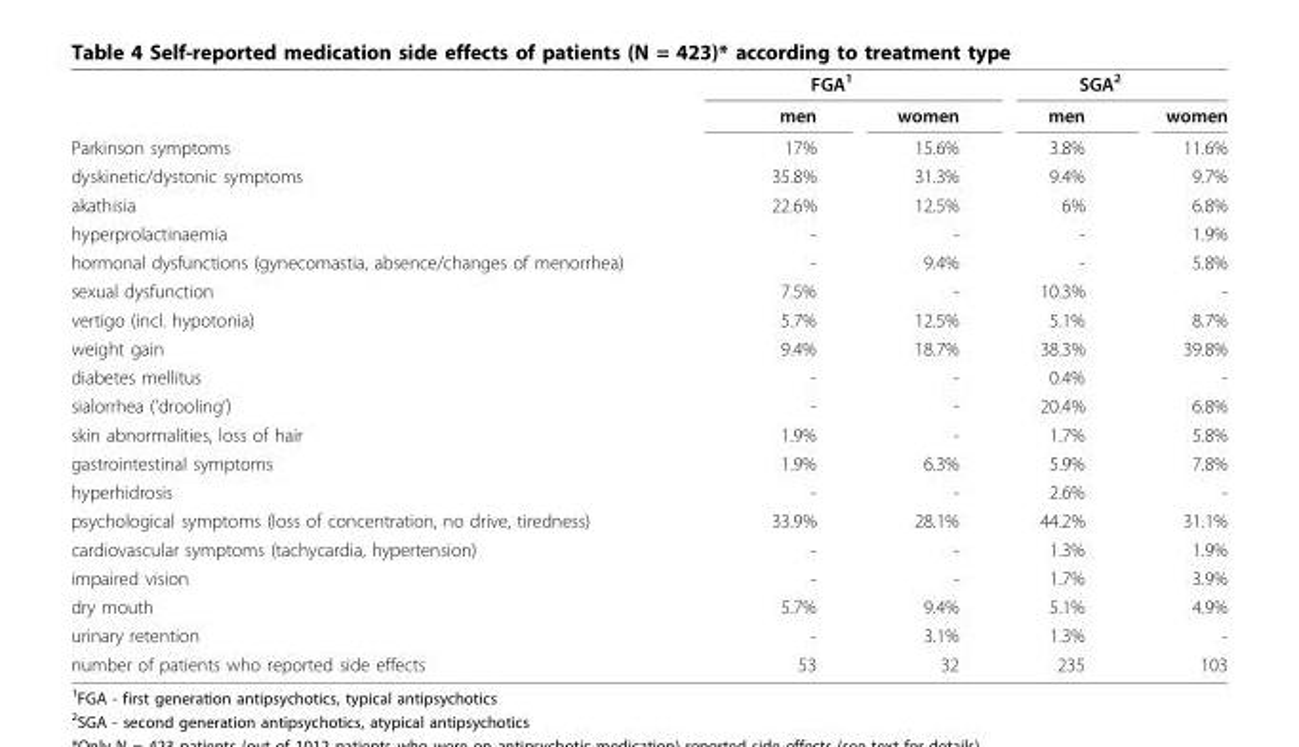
<table><thead><tr><td rowspan="2"></td><td colspan="2">FGA<sup>1</sup></td><td colspan="2">SGA<sup>2</sup></td></tr><tr><td>men</td><td>women</td><td>men</td><td>women</td></tr></thead><tbody><tr><td>Parkinson symptoms</td><td>17%</td><td>15.6%</td><td>3.8%</td><td>11.6%</td></tr><tr><td>dyskinetic/dystonic symptoms</td><td>35.8%</td><td>31.3%</td><td>9.4%</td><td>9.7%</td></tr><tr><td>akathisia</td><td>22.6%</td><td>12.5%</td><td>6%</td><td>6.8%</td></tr><tr><td>hyperprolactinaemia</td><td>-</td><td>-</td><td>-</td><td>1.9%</td></tr><tr><td>hormonal dysfunctions (gynecomastia, absence/changes of menorrhea)</td><td>-</td><td>9.4%</td><td>-</td><td>5.8%</td></tr><tr><td>sexual dysfunction</td><td>7.5%</td><td>-</td><td>10.3%</td><td>-</td></tr><tr><td>vertigo (incl. hypotonia)</td><td>5.7%</td><td>12.5%</td><td>5.1%</td><td>8.7%</td></tr><tr><td>weight gain</td><td>9.4%</td><td>18.7%</td><td>38.3%</td><td>39.8%</td></tr><tr><td>diabetes mellitus</td><td>-</td><td>-</td><td>0.4%</td><td>-</td></tr><tr><td>sialorrhea (’drooling’)</td><td>-</td><td>-</td><td>20.4%</td><td>6.8%</td></tr><tr><td>skin abnormalities, loss of hair</td><td>1.9%</td><td>-</td><td>1.7%</td><td>5.8%</td></tr><tr><td>gastrointestinal symptoms</td><td>1.9%</td><td>6.3%</td><td>5.9%</td><td>7.8%</td></tr><tr><td>hyperhidrosis</td><td>-</td><td>-</td><td>2.6%</td><td>-</td></tr><tr><td>psychological symptoms (loss of concentration, no drive, tiredness)</td><td>33.9%</td><td>28.1%</td><td>44.2%</td><td>31.1%</td></tr><tr><td>cardiovascular symptoms (tachycardia, hypertension)</td><td>-</td><td>-</td><td>1.3%</td><td>1.9%</td></tr><tr><td>impaired vision</td><td>-</td><td>-</td><td>1.7%</td><td>3.9%</td></tr><tr><td>dry mouth</td><td>5.7%</td><td>9.4%</td><td>5.1%</td><td>4.9%</td></tr><tr><td>urinary retention</td><td>-</td><td>3.1%</td><td>1.3%</td><td>-</td></tr><tr><td>number of patients who reported side effects</td><td>53</td><td>32</td><td>235</td><td>103</td></tr></tbody></table>